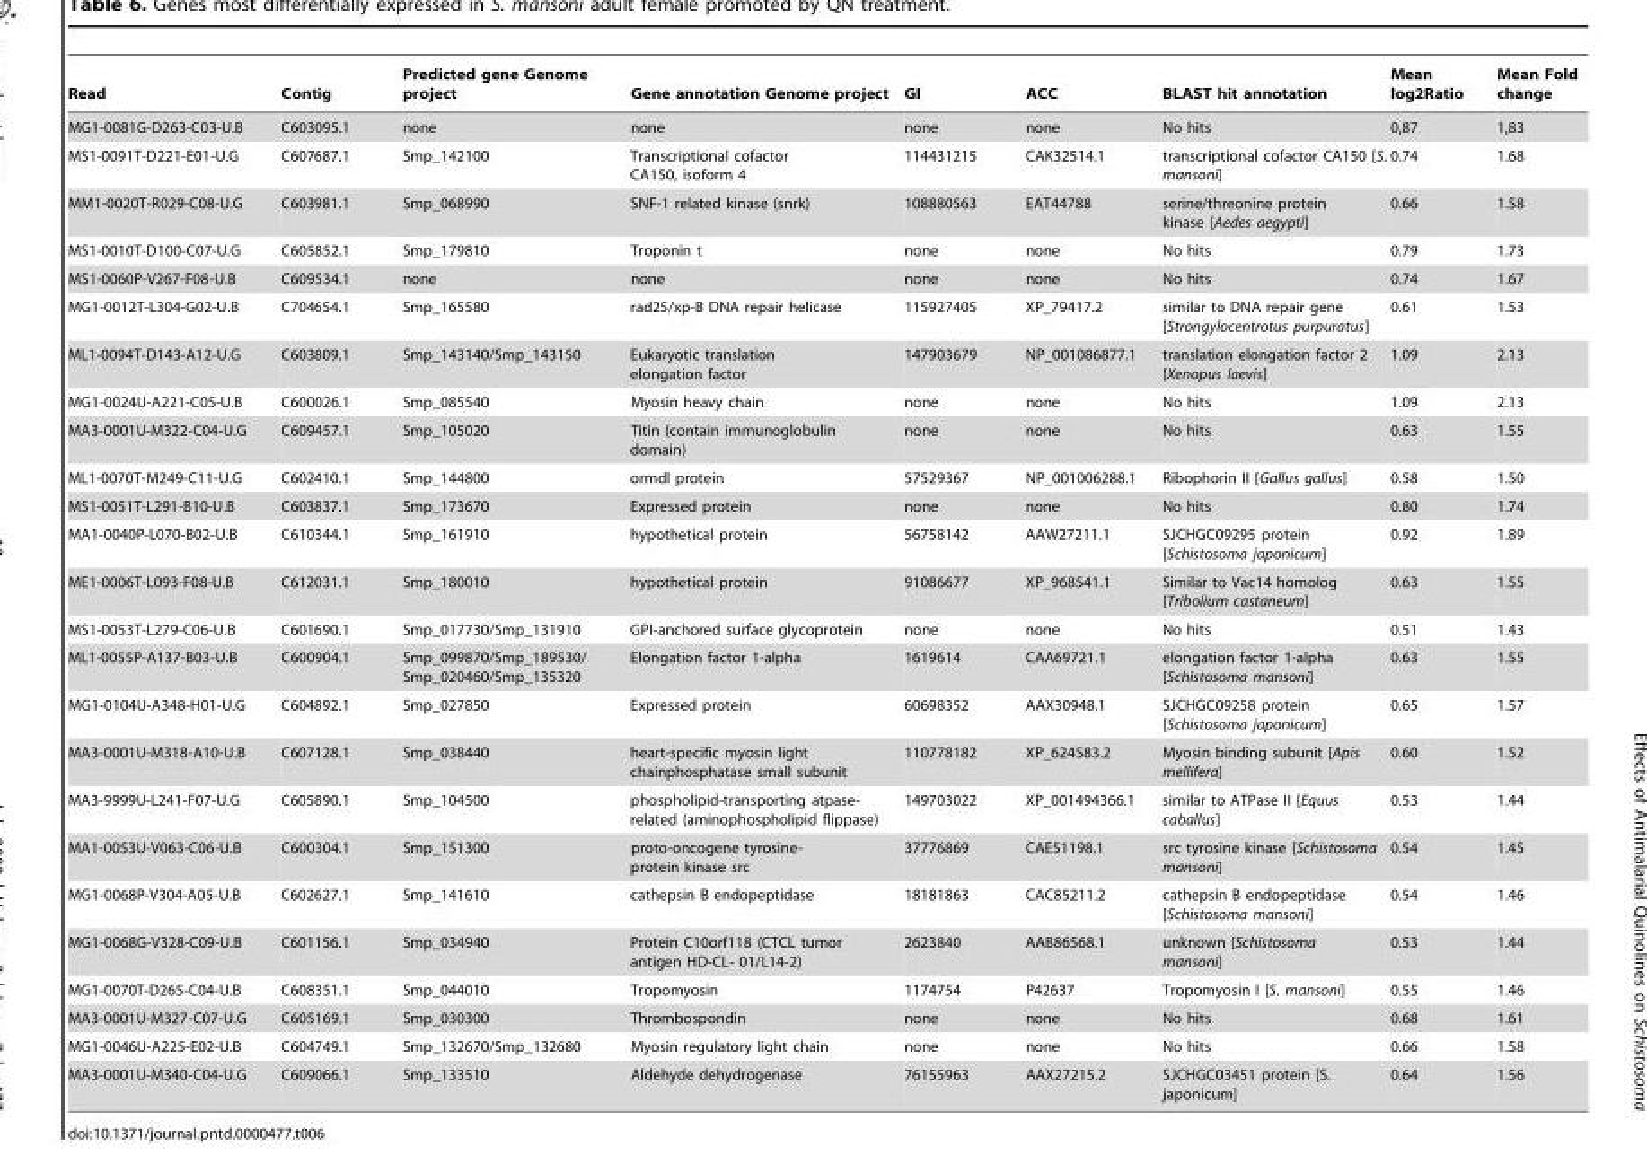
<table><thead><tr><td>Read</td><td>Contig</td><td>Predicted gene Genome project</td><td>Gene annotation Genome project</td><td>GI</td><td>ACC</td><td>BLAST hit annotation</td><td>Mean log2Ratio</td><td>Mean Fold change</td></tr></thead><tbody><tr><td>MG1-0081G-D263-C03-U.B</td><td>C603095.1</td><td>none</td><td>none</td><td>none</td><td>none</td><td>No hits</td><td>0,87</td><td>1,83</td></tr><tr><td>MS1-0091T-D221-E01-U.G</td><td>C607687.1</td><td>Smp_142100</td><td>Transcriptional cofactor CA150, isoform 4</td><td>114431215</td><td>CAK32514.1</td><td>transcriptional cofactor CA150 [S. mansoni]</td><td>0.74</td><td>1.68</td></tr><tr><td>MM1-0020T-R029-C08-U.G</td><td>C603981.1</td><td>Smp_068990</td><td>SNF-1 related kinase (snrk)</td><td>108880563</td><td>EAT44788</td><td>serine/threonine protein kinase [Aedes aegypti]</td><td>0.66</td><td>1.58</td></tr><tr><td>MS1-0010T-D100-C07-U.G</td><td>C605852.1</td><td>Smp_179810</td><td>Troponin t</td><td>none</td><td>none</td><td>No hits</td><td>0.79</td><td>1.73</td></tr><tr><td>MS1-0060P-V267-F08-U.B</td><td>C609534.1</td><td>none</td><td>none</td><td>none</td><td>none</td><td>No hits</td><td>0.74</td><td>1.67</td></tr><tr><td>MG1-0012T-L304-G02-U.B</td><td>C704654.1</td><td>Smp_165580</td><td>rad25/xp-B DNA repair helicase</td><td>115927405</td><td>XP_79417.2</td><td>similar to DNA repair gene [Strongylocentrotus purpuratus]</td><td>0.61</td><td>1.53</td></tr><tr><td>ML1-0094T-D143-A12-U.G</td><td>C603809.1</td><td>Smp_143140/Smp_143150</td><td>Eukaryotic translation elongation factor</td><td>147903679</td><td>NP_001086877.1</td><td>translation elongation factor 2 [Xenopus laevis]</td><td>1.09</td><td>2.13</td></tr><tr><td>MG1-0024U-A221-C05-U.B</td><td>C600026.1</td><td>Smp_085540</td><td>Myosin heavy chain</td><td>none</td><td>none</td><td>No hits</td><td>1.09</td><td>2.13</td></tr><tr><td>MA3-0001U-M322-C04-U.G</td><td>C609457.1</td><td>Smp_105020</td><td>Titin (contain immunoglobulin domain)</td><td>none</td><td>none</td><td>No hits</td><td>0.63</td><td>1.55</td></tr><tr><td>ML1-0070T-M249-C11-U.G</td><td>C602410.1</td><td>Smp_144800</td><td>ormdl protein</td><td>57529367</td><td>NP_001006288.1</td><td>Ribophorin II [Gallus gallus]</td><td>0.58</td><td>1.50</td></tr><tr><td>MS1-0051T-L291-B10-U.B</td><td>C603837.1</td><td>Smp_173670</td><td>Expressed protein</td><td>none</td><td>none</td><td>No hits</td><td>0.80</td><td>1.74</td></tr><tr><td>MA1-0040P-L070-B02-U.B</td><td>C610344.1</td><td>Smp_161910</td><td>hypothetical protein</td><td>56758142</td><td>AAW27211.1</td><td>SJCHGC09295 protein [Schistosoma japonicum]</td><td>0.92</td><td>1.89</td></tr><tr><td>ME1-0006T-L093-F08-U.B</td><td>C612031.1</td><td>Smp_180010</td><td>hypothetical protein</td><td>91086677</td><td>XP_968541.1</td><td>Similar to Vac14 homolog [Tribolium castaneum]</td><td>0.63</td><td>1.55</td></tr><tr><td>MS1-0053T-L279-C06-U.B</td><td>C601690.1</td><td>Smp_017730/Smp_131910</td><td>GPI-anchored surface glycoprotein</td><td>none</td><td>none</td><td>No hits</td><td>0.51</td><td>1.43</td></tr><tr><td>ML1-0055P-A137-B03-U.B</td><td>C600904.1</td><td>Smp_099870/Smp_189530/ Smp_020460/Smp_135320</td><td>Elongation factor 1-alpha</td><td>1619614</td><td>CAA69721.1</td><td>elongation factor 1-alpha [Schistosoma mansoni]</td><td>0.63</td><td>1.55</td></tr><tr><td>MG1-0104U-A348-H01-U.G</td><td>C604892.1</td><td>Smp_027850</td><td>Expressed protein</td><td>60698352</td><td>AAX30948.1</td><td>SJCHGC09258 protein [Schistosoma japonicum]</td><td>0.65</td><td>1.57</td></tr><tr><td>MA3-0001U-M318-A10-U.B</td><td>C607128.1</td><td>Smp_038440</td><td>heart-specific myosin light chainphosphatase small subunit</td><td>110778182</td><td>XP_624583.2</td><td>Myosin binding subunit [Apis mellifera]</td><td>0.60</td><td>1.52</td></tr><tr><td>MA3-9999U-L241-F07-U.G</td><td>C605890.1</td><td>Smp_104500</td><td>phospholipid-transporting atpase- related (aminophospholipid flippase)</td><td>149703022</td><td>XP_001494366.1</td><td>similar to ATPase II [Equus caballus]</td><td>0.53</td><td>1.44</td></tr><tr><td>MA1-0053U-V063-C06-U.B</td><td>C600304.1</td><td>Smp_151300</td><td>proto-oncogene tyrosine- protein kinase src</td><td>37776869</td><td>CAE51198.1</td><td>src tyrosine kinase [Schistosoma mansoni]</td><td>0.54</td><td>1.45</td></tr><tr><td>MG1-0068P-V304-A05-U.B</td><td>C602627.1</td><td>Smp_141610</td><td>cathepsin B endopeptidase</td><td>18181863</td><td>CAC85211.2</td><td>cathepsin B endopeptidase [Schistosoma mansoni]</td><td>0.54</td><td>1.46</td></tr><tr><td>MG1-0068G-V328-C09-U.B</td><td>C601156.1</td><td>Smp_034940</td><td>Protein C10orf118 (CTCL tumor antigen HD-CL- 01/L14-2)</td><td>2623840</td><td>AAB86568.1</td><td>unknown [Schistosoma mansoni]</td><td>0.53</td><td>1.44</td></tr><tr><td>MG1-0070T-D265-C04-U.B</td><td>C608351.1</td><td>Smp_044010</td><td>Tropomyosin</td><td>1174754</td><td>P42637</td><td>Tropomyosin I [S. mansoni]</td><td>0.55</td><td>1.46</td></tr><tr><td>MA3-0001U-M327-C07-U.G</td><td>C605169.1</td><td>Smp_030300</td><td>Thrombospondin</td><td>none</td><td>none</td><td>No hits</td><td>0.68</td><td>1.61</td></tr><tr><td>MG1-0046U-A225-E02-U.B</td><td>C604749.1</td><td>Smp_132670/Smp_132680</td><td>Myosin regulatory light chain</td><td>none</td><td>none</td><td>No hits</td><td>0.66</td><td>1.58</td></tr><tr><td>MA3-0001U-M340-C04-U.G</td><td>C609066.1</td><td>Smp_133510</td><td>Aldehyde dehydrogenase</td><td>76155963</td><td>AAX27215.2</td><td>SJCHGC03451 protein [S. japonicum]</td><td>0.64</td><td>1.56</td></tr></tbody></table>